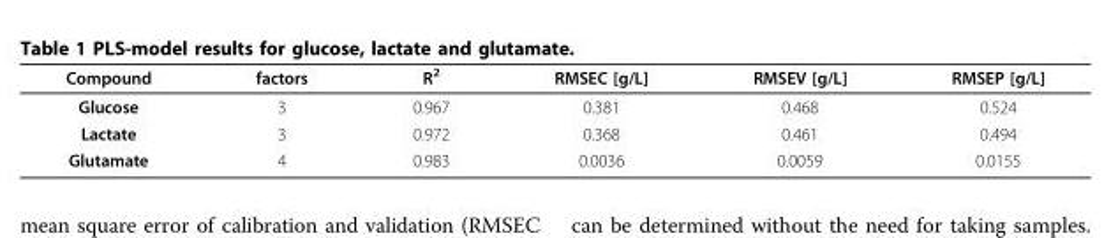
<table><thead><tr><td>Compound</td><td>factors</td><td>R<sup>2</sup></td><td>RMSEC [g/L]</td><td>RMSEV [g/L]</td><td>RMSEP [g/L]</td></tr></thead><tbody><tr><td>Glucose</td><td>3</td><td>0.967</td><td>0.381</td><td>0.468</td><td>0.524</td></tr><tr><td>Lactate</td><td>3</td><td>0.972</td><td>0.368</td><td>0.461</td><td>0.494</td></tr><tr><td>Glutamate</td><td>4</td><td>0.983</td><td>0.0036</td><td>0.0059</td><td>0.0155</td></tr></tbody></table>